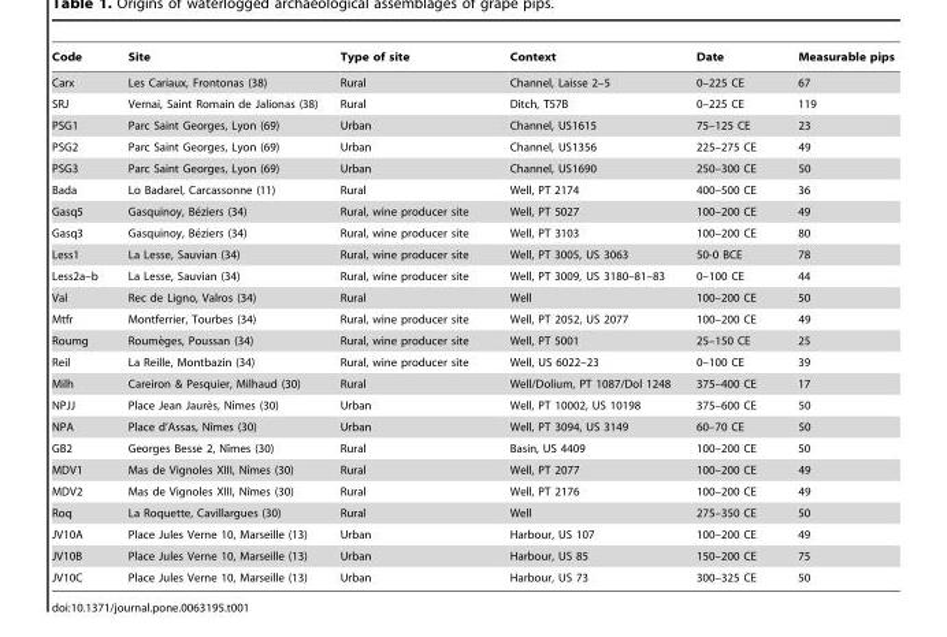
<table><thead><tr><td>Code</td><td>Site</td><td>Type of site</td><td>Context</td><td>Date</td><td>Measurable pips</td></tr></thead><tbody><tr><td>Carx</td><td>Les Cariaux, Frontonas (38)</td><td>Rural</td><td>Channel, Laisse 2–5</td><td>0–225 CE</td><td>67</td></tr><tr><td>SRJ</td><td>Vernai, Saint Romain de Jalionas (38)</td><td>Rural</td><td>Ditch, T57B</td><td>0–225 CE</td><td>119</td></tr><tr><td>PSG1</td><td>Parc Saint Georges, Lyon (69)</td><td>Urban</td><td>Channel, US1615</td><td>75–125 CE</td><td>23</td></tr><tr><td>PSG2</td><td>Parc Saint Georges, Lyon (69)</td><td>Urban</td><td>Channel, US1356</td><td>225–275 CE</td><td>49</td></tr><tr><td>PSG3</td><td>Parc Saint Georges, Lyon (69)</td><td>Urban</td><td>Channel, US1690</td><td>250–300 CE</td><td>50</td></tr><tr><td>Bada</td><td>Lo Badarel, Carcassonne (11)</td><td>Rural</td><td>Well, PT 2174</td><td>400–500 CE</td><td>36</td></tr><tr><td>Gasq5</td><td>Gasquinoy, Be´ziers (34)</td><td>Rural, wine producer site</td><td>Well, PT 5027</td><td>100–200 CE</td><td>49</td></tr><tr><td>Gasq3</td><td>Gasquinoy, Be´ziers (34)</td><td>Rural, wine producer site</td><td>Well, PT 3103</td><td>100–200 CE</td><td>80</td></tr><tr><td>Less1</td><td>La Lesse, Sauvian (34)</td><td>Rural, wine producer site</td><td>Well, PT 3005, US 3063</td><td>50-0 BCE</td><td>78</td></tr><tr><td>Less2a–b</td><td>La Lesse, Sauvian (34)</td><td>Rural, wine producer site</td><td>Well, PT 3009, US 3180–81–83</td><td>0–100 CE</td><td>44</td></tr><tr><td>Val</td><td>Rec de Ligno, Valros (34)</td><td>Rural</td><td>Well</td><td>100–200 CE</td><td>50</td></tr><tr><td>Mtfr</td><td>Montferrier, Tourbes (34)</td><td>Rural, wine producer site</td><td>Well, PT 2052, US 2077</td><td>100–200 CE</td><td>49</td></tr><tr><td>Roumg</td><td>Roume`ges, Poussan (34)</td><td>Rural, wine producer site</td><td>Well, PT 5001</td><td>25–150 CE</td><td>25</td></tr><tr><td>Reil</td><td>La Reille, Montbazin (34)</td><td>Rural, wine producer site</td><td>Well, US 6022–23</td><td>0–100 CE</td><td>39</td></tr><tr><td>Milh</td><td>Careiron &amp; Pesquier, Milhaud (30)</td><td>Rural</td><td>Well/Dolium, PT 1087/Dol 1248</td><td>375–400 CE</td><td>17</td></tr><tr><td>NPJJ</td><td>Place Jean Jaure`s, Nıˆmes (30)</td><td>Urban</td><td>Well, PT 10002, US 10198</td><td>375–600 CE</td><td>50</td></tr><tr><td>NPA</td><td>Place d’Assas, Nıˆmes (30)</td><td>Urban</td><td>Well, PT 3094, US 3149</td><td>60–70 CE</td><td>50</td></tr><tr><td>GB2</td><td>Georges Besse 2, Nıˆmes (30)</td><td>Rural</td><td>Basin, US 4409</td><td>100–200 CE</td><td>50</td></tr><tr><td>MDV1</td><td>Mas de Vignoles XIII, Nıˆmes (30)</td><td>Rural</td><td>Well, PT 2077</td><td>100–200 CE</td><td>49</td></tr><tr><td>MDV2</td><td>Mas de Vignoles XIII, Nıˆmes (30)</td><td>Rural</td><td>Well, PT 2176</td><td>100–200 CE</td><td>49</td></tr><tr><td>Roq</td><td>La Roquette, Cavillargues (30)</td><td>Rural</td><td>Well</td><td>275–350 CE</td><td>50</td></tr><tr><td>JV10A</td><td>Place Jules Verne 10, Marseille (13)</td><td>Urban</td><td>Harbour, US 107</td><td>100–200 CE</td><td>49</td></tr><tr><td>JV10B</td><td>Place Jules Verne 10, Marseille (13)</td><td>Urban</td><td>Harbour, US 85</td><td>150–200 CE</td><td>75</td></tr><tr><td>JV10C</td><td>Place Jules Verne 10, Marseille (13)</td><td>Urban</td><td>Harbour, US 73</td><td>300–325 CE</td><td>50</td></tr></tbody></table>